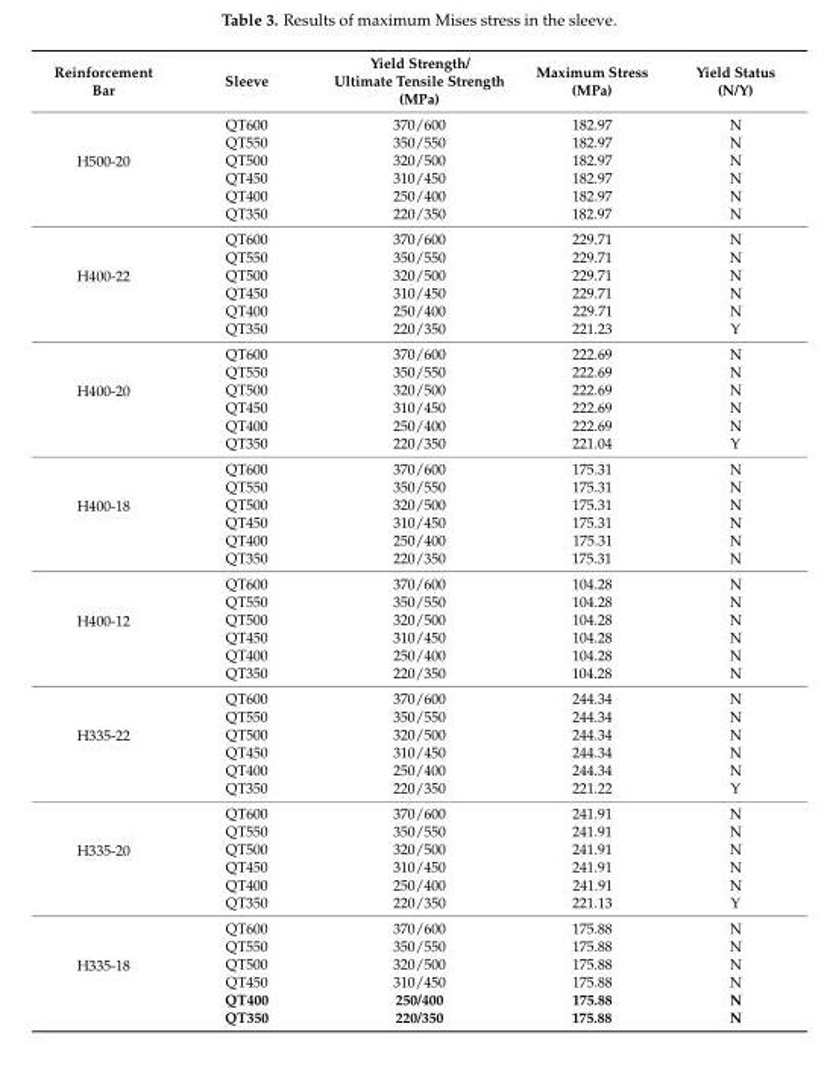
<table><thead><tr><td>Reinforcement Bar</td><td>Sleeve</td><td>Yield Strength/ Ultimate Tensile Strength (MPa)</td><td>Maximum Stress (MPa)</td><td>Yield Status (N/Y)</td></tr></thead><tbody><tr><td rowspan="5">H500-20</td><td>QT600</td><td>370/600</td><td>182.97</td><td>N</td></tr><tr><td>QT550</td><td>350/550</td><td>182.97</td><td>N</td></tr><tr><td>QT500</td><td>320/500</td><td>182.97</td><td>N</td></tr><tr><td>QT450</td><td>310/450</td><td>182.97</td><td>N</td></tr><tr><td>QT400 QT350</td><td>250/400 220/350</td><td>182.97 182.97</td><td>N N</td></tr><tr><td rowspan="5">H400-22</td><td>QT600</td><td>370/600</td><td>229.71</td><td>N</td></tr><tr><td>QT550</td><td>350/550</td><td>229.71</td><td>N</td></tr><tr><td>QT500</td><td>320/500</td><td>229.71</td><td>N</td></tr><tr><td>QT450</td><td>310/450</td><td>229.71</td><td>N</td></tr><tr><td>QT400 QT350</td><td>250/400 220/350</td><td>229.71 221.23</td><td>N Y</td></tr><tr><td rowspan="5">H400-20</td><td>QT600</td><td>370/600</td><td>222.69</td><td>N</td></tr><tr><td>QT550</td><td>350/550</td><td>222.69</td><td>N</td></tr><tr><td>QT500</td><td>320/500</td><td>222.69</td><td>N</td></tr><tr><td>QT450</td><td>310/450</td><td>222.69</td><td>N</td></tr><tr><td>QT400 QT350</td><td>250/400 220/350</td><td>222.69 221.04</td><td>N Y</td></tr><tr><td rowspan="5">H400-18</td><td>QT600</td><td>370/600</td><td>175.31</td><td>N</td></tr><tr><td>QT550</td><td>350/550</td><td>175.31</td><td>N</td></tr><tr><td>QT500</td><td>320/500</td><td>175.31</td><td>N</td></tr><tr><td>QT450</td><td>310/450</td><td>175.31</td><td>N</td></tr><tr><td>QT400 QT350</td><td>250/400 220/350</td><td>175.31 175.31</td><td>N N</td></tr><tr><td rowspan="5">H400-12</td><td>QT600</td><td>370/600</td><td>104.28</td><td>N</td></tr><tr><td>QT550</td><td>350/550</td><td>104.28</td><td>N</td></tr><tr><td>QT500</td><td>320/500</td><td>104.28</td><td>N</td></tr><tr><td>QT450</td><td>310/450</td><td>104.28</td><td>N</td></tr><tr><td>QT400 QT350</td><td>250/400 220/350</td><td>104.28 104.28</td><td>N N</td></tr><tr><td rowspan="5">H335-22</td><td>QT600</td><td>370/600</td><td>244.34</td><td>N</td></tr><tr><td>QT550</td><td>350/550</td><td>244.34</td><td>N</td></tr><tr><td>QT500</td><td>320/500</td><td>244.34</td><td>N</td></tr><tr><td>QT450</td><td>310/450</td><td>244.34</td><td>N</td></tr><tr><td>QT400 QT350</td><td>250/400 220/350</td><td>244.34 221.22</td><td>N Y</td></tr><tr><td rowspan="5">H335-20</td><td>QT600</td><td>370/600</td><td>241.91</td><td>N</td></tr><tr><td>QT550</td><td>350/550</td><td>241.91</td><td>N</td></tr><tr><td>QT500</td><td>320/500</td><td>241.91</td><td>N</td></tr><tr><td>QT450</td><td>310/450</td><td>241.91</td><td>N</td></tr><tr><td>QT400 QT350</td><td>250/400 220/350</td><td>241.91 221.13</td><td>N Y</td></tr><tr><td rowspan="5">H335-18</td><td>QT600</td><td>370/600</td><td>175.88</td><td>N</td></tr><tr><td>QT550</td><td>350/550</td><td>175.88</td><td>N</td></tr><tr><td>QT500</td><td>320/500</td><td>175.88</td><td>N</td></tr><tr><td>QT450</td><td>310/450</td><td>175.88</td><td>N</td></tr><tr><td>QT400 QT350</td><td>250/400 220/350</td><td>175.88 175.88</td><td>N N</td></tr></tbody></table>